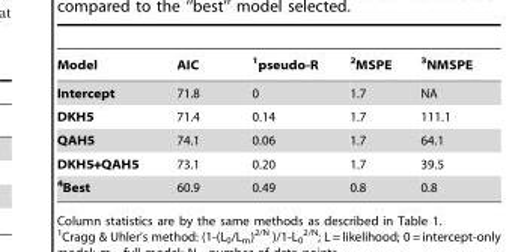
<table><thead><tr><td>Model</td><td>AIC</td><td>1pseudo-R</td><td>2MSPE</td><td>3NMSPE</td></tr></thead><tbody><tr><td>Intercept</td><td>71.8</td><td>0</td><td>1.7</td><td>NA</td></tr><tr><td>DKH5</td><td>71.4</td><td>0.14</td><td>1.7</td><td>111.1</td></tr><tr><td>QAH5</td><td>74.1</td><td>0.06</td><td>1.7</td><td>64.1</td></tr><tr><td>DKH5+QAH5</td><td>73.1</td><td>0.20</td><td>1.7</td><td>39.5</td></tr><tr><td>4Best</td><td>60.9</td><td>0.49</td><td>0.8</td><td>0.8</td></tr></tbody></table>